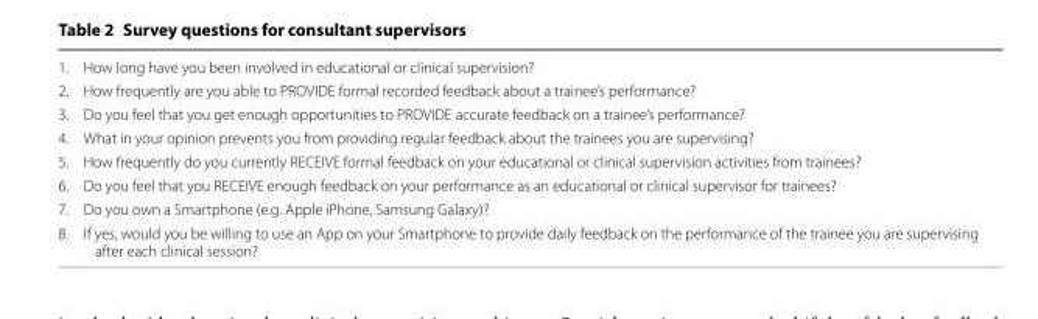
<table><tbody><tr><td>1.</td><td>How long have you been involved in educational or clinical supervision?</td></tr><tr><td>2.</td><td>How frequently are you able to PROVIDE formal recorded feedback about a trainee’s performance?</td></tr><tr><td>3.</td><td>Do you feel that you get enough opportunities to PROVIDE accurate feedback on a trainee’s performance?</td></tr><tr><td>4.</td><td>What in your opinion prevents you from providing regular feedback about the trainees you are supervising?</td></tr><tr><td>5.</td><td>How frequently do you currently RECEIVE formal feedback on your educational or clinical supervision activities from trainees?</td></tr><tr><td>6.</td><td>Do you feel that you RECEIVE enough feedback on your performance as an educational or clinical supervisor for trainees?</td></tr><tr><td>7.</td><td>Do you own a Smartphone (e.g. Apple iPhone, Samsung Galaxy)?</td></tr><tr><td>8.</td><td>If yes, would you be willing to use an App on your Smartphone to provide daily feedback on the performance of the trainee you are supervising after each clinical session?</td></tr></tbody></table>